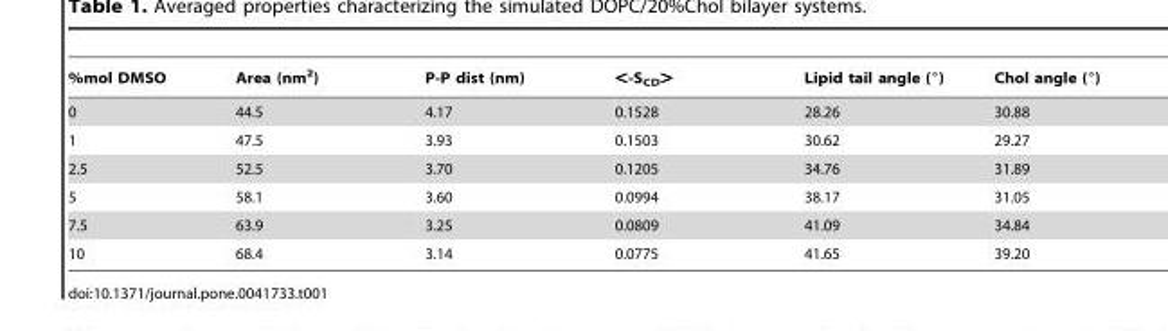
<table><thead><tr><td>%mol DMSO</td><td>Area (nm<sup>2</sup>)</td><td>P-P dist (nm)</td><td>&lt;-S<sub>CD</sub>&gt;</td><td>Lipid tail angle (°)</td><td>Chol angle (°)</td></tr></thead><tbody><tr><td>0</td><td>44.5</td><td>4.17</td><td>0.1528</td><td>28.26</td><td>30.88</td></tr><tr><td>1</td><td>47.5</td><td>3.93</td><td>0.1503</td><td>30.62</td><td>29.27</td></tr><tr><td>2.5</td><td>52.5</td><td>3.70</td><td>0.1205</td><td>34.76</td><td>31.89</td></tr><tr><td>5</td><td>58.1</td><td>3.60</td><td>0.0994</td><td>38.17</td><td>31.05</td></tr><tr><td>7.5</td><td>63.9</td><td>3.25</td><td>0.0809</td><td>41.09</td><td>34.84</td></tr><tr><td>10</td><td>68.4</td><td>3.14</td><td>0.0775</td><td>41.65</td><td>39.20</td></tr></tbody></table>